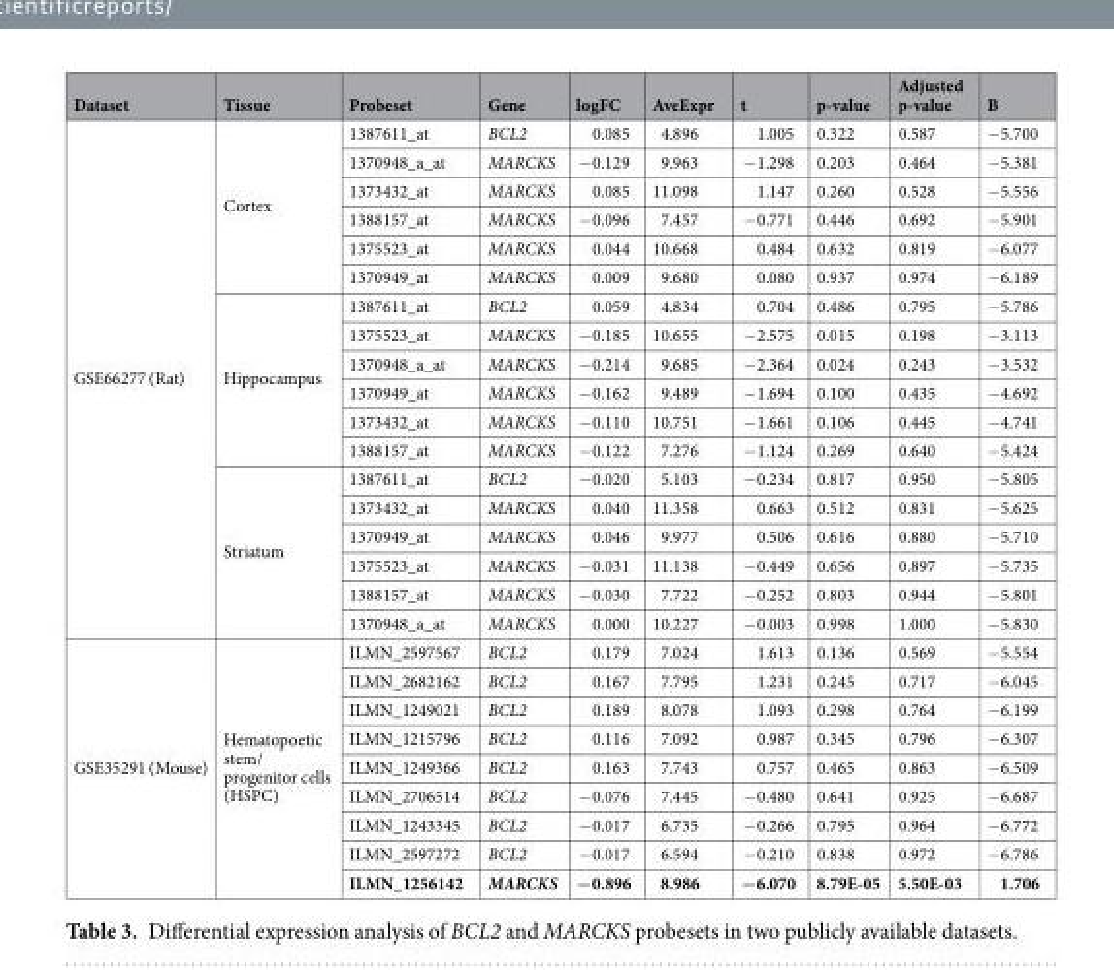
<table><thead><tr><td>Dataset</td><td>Tissue</td><td>Probeset</td><td>Gene</td><td>logFC</td><td>AveExpr</td><td>t</td><td>p-value</td><td>Adjusted p-value</td><td>B</td></tr></thead><tbody><tr><td rowspan="18">GSE66277 (Rat)</td><td rowspan="6">Cortex</td><td>1387611_at</td><td>BCL2</td><td>0.085</td><td>4.896</td><td>1.005</td><td>0.322</td><td>0.587</td><td>−5.700</td></tr><tr><td>1370948_a_at</td><td>MARCKS</td><td>−0.129</td><td>9.963</td><td>−1.298</td><td>0.203</td><td>0.464</td><td>−5.381</td></tr><tr><td>1373432_at</td><td>MARCKS</td><td>0.085</td><td>11.098</td><td>1.147</td><td>0.260</td><td>0.528</td><td>−5.556</td></tr><tr><td>1388157_at</td><td>MARCKS</td><td>−0.096</td><td>7.457</td><td>−0.771</td><td>0.446</td><td>0.692</td><td>−5.901</td></tr><tr><td>1375523_at</td><td>MARCKS</td><td>0.044</td><td>10.668</td><td>0.484</td><td>0.632</td><td>0.819</td><td>−6.077</td></tr><tr><td>1370949_at</td><td>MARCKS</td><td>0.009</td><td>9.680</td><td>0.080</td><td>0.937</td><td>0.974</td><td>−6.189</td></tr><tr><td rowspan="6">Hippocampus</td><td>1387611_at</td><td>BCL2</td><td>0.059</td><td>4.834</td><td>0.704</td><td>0.486</td><td>0.795</td><td>−5.786</td></tr><tr><td>1375523_at</td><td>MARCKS</td><td>−0.185</td><td>10.655</td><td>−2.575</td><td>0.015</td><td>0.198</td><td>−3.113</td></tr><tr><td>1370948_a_at</td><td>MARCKS</td><td>−0.214</td><td>9.685</td><td>−2.364</td><td>0.024</td><td>0.243</td><td>−3.532</td></tr><tr><td>1370949_at</td><td>MARCKS</td><td>−0.162</td><td>9.489</td><td>−1.694</td><td>0.100</td><td>0.435</td><td>−4.692</td></tr><tr><td>1373432_at</td><td>MARCKS</td><td>−0.110</td><td>10.751</td><td>−1.661</td><td>0.106</td><td>0.445</td><td>−4.741</td></tr><tr><td>1388157_at</td><td>MARCKS</td><td>−0.122</td><td>7.276</td><td>−1.124</td><td>0.269</td><td>0.640</td><td>−5.424</td></tr><tr><td rowspan="6">Striatum</td><td>1387611_at</td><td>BCL2</td><td>−0.020</td><td>5.103</td><td>−0.234</td><td>0.817</td><td>0.950</td><td>−5.805</td></tr><tr><td>1373432_at</td><td>MARCKS</td><td>0.040</td><td>11.358</td><td>0.663</td><td>0.512</td><td>0.831</td><td>−5.625</td></tr><tr><td>1370949_at</td><td>MARCKS</td><td>0.046</td><td>9.977</td><td>0.506</td><td>0.616</td><td>0.880</td><td>−5.710</td></tr><tr><td>1375523_at</td><td>MARCKS</td><td>−0.031</td><td>11.138</td><td>−0.449</td><td>0.656</td><td>0.897</td><td>−5.735</td></tr><tr><td>1388157_at</td><td>MARCKS</td><td>−0.030</td><td>7.722</td><td>−0.252</td><td>0.803</td><td>0.944</td><td>−5.801</td></tr><tr><td>1370948_a_at</td><td>MARCKS</td><td>0.000</td><td>10.227</td><td>−0.003</td><td>0.998</td><td>1.000</td><td>−5.830</td></tr><tr><td rowspan="9">GSE35291 (Mouse)</td><td rowspan="9">Hematopoetic stem/ progenitor cells (HSPC)</td><td>ILMN_2597567</td><td>BCL2</td><td>0.179</td><td>7.024</td><td>1.613</td><td>0.136</td><td>0.569</td><td>−5.554</td></tr><tr><td>ILMN_2682162</td><td>BCL2</td><td>0.167</td><td>7.795</td><td>1.231</td><td>0.245</td><td>0.717</td><td>−6.045</td></tr><tr><td>ILMN_1249021</td><td>BCL2</td><td>0.189</td><td>8.078</td><td>1.093</td><td>0.298</td><td>0.764</td><td>−6.199</td></tr><tr><td>ILMN_1215796</td><td>BCL2</td><td>0.116</td><td>7.092</td><td>0.987</td><td>0.345</td><td>0.796</td><td>−6.307</td></tr><tr><td>ILMN_1249366</td><td>BCL2</td><td>0.163</td><td>7.743</td><td>0.757</td><td>0.465</td><td>0.863</td><td>−6.509</td></tr><tr><td>ILMN_2706514</td><td>BCL2</td><td>−0.076</td><td>7.445</td><td>−0.480</td><td>0.641</td><td>0.925</td><td>−6.687</td></tr><tr><td>ILMN_1243345</td><td>BCL2</td><td>−0.017</td><td>6.735</td><td>−0.266</td><td>0.795</td><td>0.964</td><td>−6.772</td></tr><tr><td>ILMN_2597272</td><td>BCL2</td><td>−0.017</td><td>6.594</td><td>−0.210</td><td>0.838</td><td>0.972</td><td>−6.786</td></tr><tr><td>ILMN_1256142</td><td>MARCKS</td><td>−0.896</td><td>8.986</td><td>−6.070</td><td>8.79E-05</td><td>5.50E-03</td><td>1.706</td></tr></tbody></table>